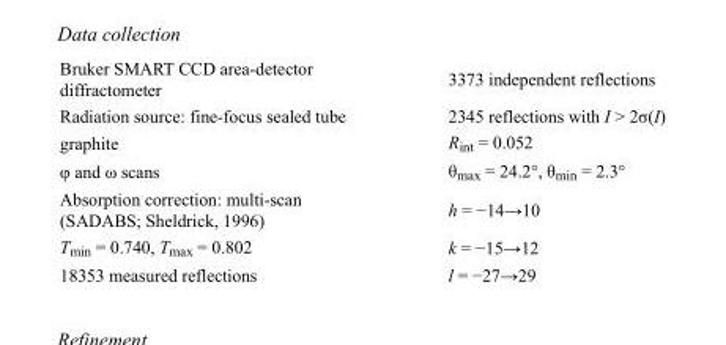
<table><tbody><tr><td>Bruker SMART CCD area-detector diffractometer</td><td>3373 independent reflections</td></tr><tr><td>Radiation source: fine-focus sealed tube</td><td>2345 reflections with I &gt; 2σ(I)</td></tr><tr><td>graphite</td><td>R<sub>int</sub> = 0.052</td></tr><tr><td>φ and ω scans</td><td>θ<sub>max</sub> = 24.2°, θ<sub>min</sub> = 2.3°</td></tr><tr><td>Absorption correction: multi-scan (SADABS; Sheldrick, 1996)</td><td>h = −14→10</td></tr><tr><td>T<sub>min</sub> = 0.740, T<sub>max</sub> = 0.802</td><td>k = −15→12</td></tr><tr><td>18353 measured reflections</td><td>l = −27→29</td></tr></tbody></table>